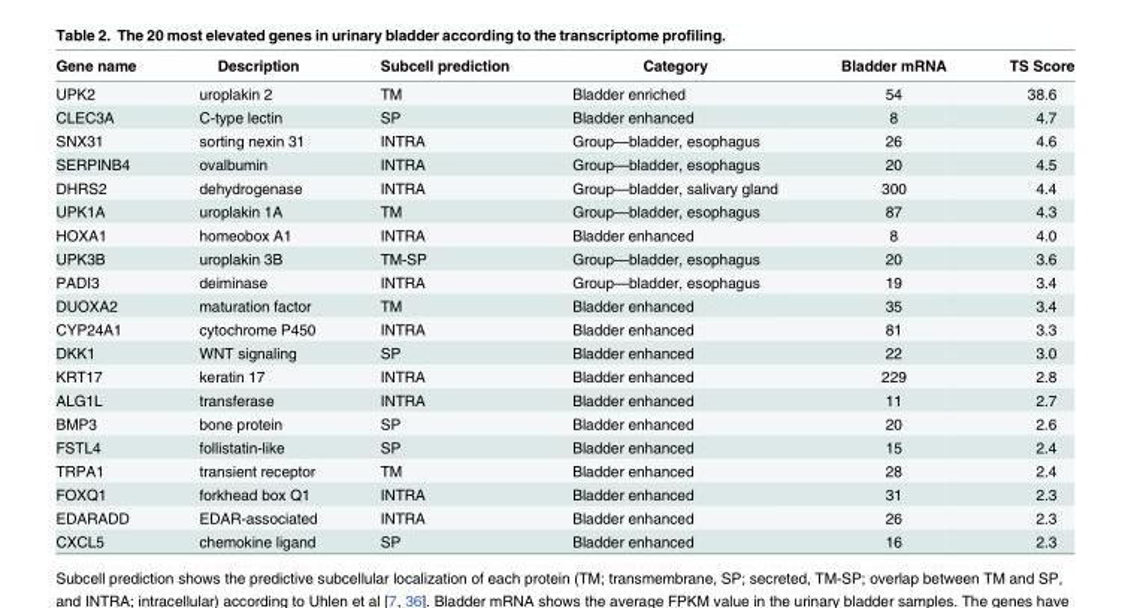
<table><thead><tr><td>Gene name</td><td>Description</td><td>Subcell prediction</td><td>Category</td><td>Bladder mRNA</td><td>TS Score</td></tr></thead><tbody><tr><td>UPK2</td><td>uroplakin 2</td><td>TM</td><td>Bladder enriched</td><td>54</td><td>38.6</td></tr><tr><td>CLEC3A</td><td>C-type lectin</td><td>SP</td><td>Bladder enhanced</td><td>8</td><td>4.7</td></tr><tr><td>SNX31</td><td>sorting nexin 31</td><td>INTRA</td><td>Group—bladder, esophagus</td><td>26</td><td>4.6</td></tr><tr><td>SERPINB4</td><td>ovalbumin</td><td>INTRA</td><td>Group—bladder, esophagus</td><td>20</td><td>4.5</td></tr><tr><td>DHRS2</td><td>dehydrogenase</td><td>INTRA</td><td>Group—bladder, salivary gland</td><td>300</td><td>4.4</td></tr><tr><td>UPK1A</td><td>uroplakin 1A</td><td>TM</td><td>Group—bladder, esophagus</td><td>87</td><td>4.3</td></tr><tr><td>HOXA1</td><td>homeobox A1</td><td>INTRA</td><td>Bladder enhanced</td><td>8</td><td>4.0</td></tr><tr><td>UPK3B</td><td>uroplakin 3B</td><td>TM-SP</td><td>Group—bladder, esophagus</td><td>20</td><td>3.6</td></tr><tr><td>PADI3</td><td>deiminase</td><td>INTRA</td><td>Group—bladder, esophagus</td><td>19</td><td>3.4</td></tr><tr><td>DUOXA2</td><td>maturation factor</td><td>TM</td><td>Bladder enhanced</td><td>35</td><td>3.4</td></tr><tr><td>CYP24A1</td><td>cytochrome P450</td><td>INTRA</td><td>Bladder enhanced</td><td>81</td><td>3.3</td></tr><tr><td>DKK1</td><td>WNT signaling</td><td>SP</td><td>Bladder enhanced</td><td>22</td><td>3.0</td></tr><tr><td>KRT17</td><td>keratin 17</td><td>INTRA</td><td>Bladder enhanced</td><td>229</td><td>2.8</td></tr><tr><td>ALG1L</td><td>transferase</td><td>INTRA</td><td>Bladder enhanced</td><td>11</td><td>2.7</td></tr><tr><td>BMP3</td><td>bone protein</td><td>SP</td><td>Bladder enhanced</td><td>20</td><td>2.6</td></tr><tr><td>FSTL4</td><td>follistatin-like</td><td>SP</td><td>Bladder enhanced</td><td>15</td><td>2.4</td></tr><tr><td>TRPA1</td><td>transient receptor</td><td>TM</td><td>Bladder enhanced</td><td>28</td><td>2.4</td></tr><tr><td>FOXQ1</td><td>forkhead box Q1</td><td>INTRA</td><td>Bladder enhanced</td><td>31</td><td>2.3</td></tr><tr><td>EDARADD</td><td>EDAR-associated</td><td>INTRA</td><td>Bladder enhanced</td><td>26</td><td>2.3</td></tr><tr><td>CXCL5</td><td>chemokine ligand</td><td>SP</td><td>Bladder enhanced</td><td>16</td><td>2.3</td></tr></tbody></table>